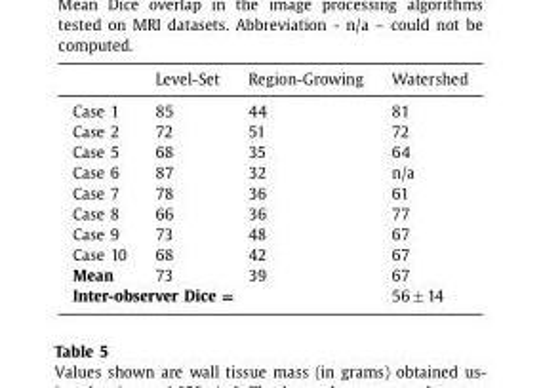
<table><thead><tr><td></td><td>Level-Set</td><td>Region-Growing</td><td>Watershed</td></tr></thead><tbody><tr><td>Case 1</td><td>85</td><td>44</td><td>81</td></tr><tr><td>Case 2</td><td>72</td><td>51</td><td>72</td></tr><tr><td>Case 5</td><td>68</td><td>35</td><td>64</td></tr><tr><td>Case 6</td><td>87</td><td>32</td><td>n/a</td></tr><tr><td>Case 7</td><td>78</td><td>36</td><td>61</td></tr><tr><td>Case 8</td><td>66</td><td>36</td><td>77</td></tr><tr><td>Case 9</td><td>73</td><td>48</td><td>67</td></tr><tr><td>Case 10</td><td>68</td><td>42</td><td>67</td></tr><tr><td>Mean</td><td>73</td><td>39</td><td>67</td></tr><tr><td colspan="3">Inter-observer Dice =</td><td>56 ± 14</td></tr></tbody></table>